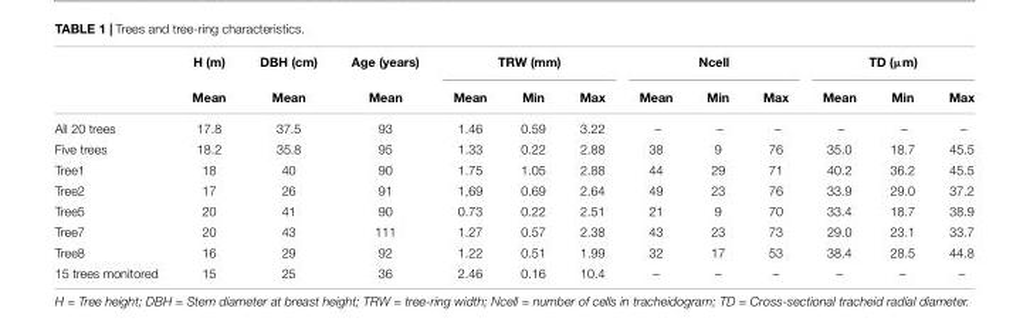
<table><thead><tr><td rowspan="2"></td><td rowspan="2">H (m) Mean</td><td rowspan="2">DBH (cm) Mean</td><td rowspan="2">Age (years) Mean</td><td colspan="3">TRW (mm)</td><td colspan="3">Ncell</td><td colspan="3">TD (µm)</td></tr><tr><td>Mean</td><td>Min</td><td>Max</td><td>Mean</td><td>Min</td><td>Max</td><td>Mean</td><td>Min</td><td>Max</td></tr></thead><tbody><tr><td>All 20 trees</td><td>17.8</td><td>37.5</td><td>93</td><td>1.46</td><td>0.59</td><td>3.22</td><td>–</td><td>–</td><td>–</td><td>–</td><td>–</td><td>–</td></tr><tr><td>Five trees</td><td>18.2</td><td>35.8</td><td>95</td><td>1.33</td><td>0.22</td><td>2.88</td><td>38</td><td>9</td><td>76</td><td>35.0</td><td>18.7</td><td>45.5</td></tr><tr><td>Tree1</td><td>18</td><td>40</td><td>90</td><td>1.75</td><td>1.05</td><td>2.88</td><td>44</td><td>29</td><td>71</td><td>40.2</td><td>36.2</td><td>45.5</td></tr><tr><td>Tree2</td><td>17</td><td>26</td><td>91</td><td>1,69</td><td>0.69</td><td>2.64</td><td>49</td><td>23</td><td>76</td><td>33.9</td><td>29.0</td><td>37.2</td></tr><tr><td>Tree5</td><td>20</td><td>41</td><td>90</td><td>0.73</td><td>0.22</td><td>2.51</td><td>21</td><td>9</td><td>70</td><td>33.4</td><td>18.7</td><td>38.9</td></tr><tr><td>Tree7</td><td>20</td><td>43</td><td>111</td><td>1.27</td><td>0.57</td><td>2.38</td><td>43</td><td>23</td><td>73</td><td>29.0</td><td>23.1</td><td>33.7</td></tr><tr><td>Tree8</td><td>16</td><td>29</td><td>92</td><td>1.22</td><td>0.51</td><td>1.99</td><td>32</td><td>17</td><td>53</td><td>38.4</td><td>28.5</td><td>44.8</td></tr><tr><td>15 trees monitored</td><td>15</td><td>25</td><td>36</td><td>2.46</td><td>0.16</td><td>10.4</td><td>–</td><td>–</td><td>–</td><td>–</td><td>–</td><td>–</td></tr></tbody></table>